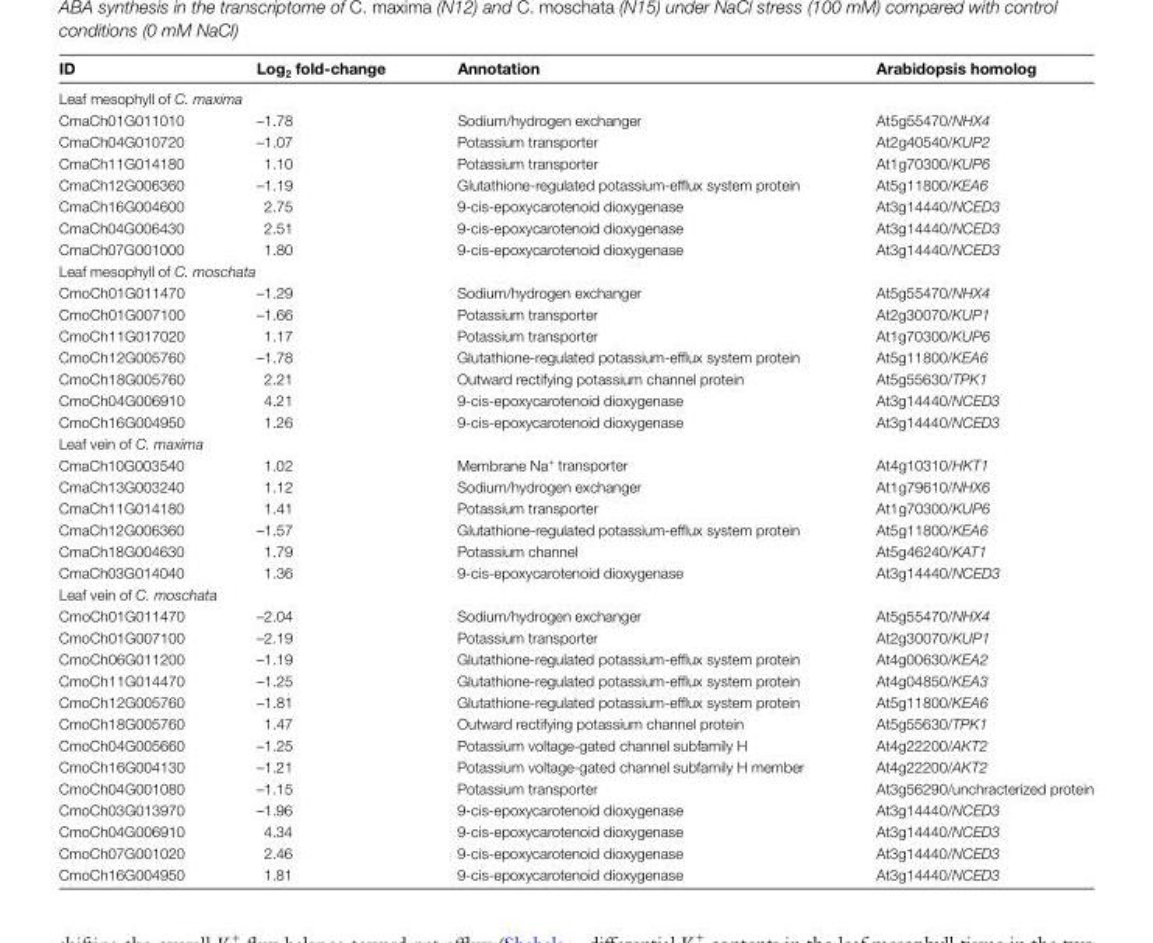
<table><thead><tr><td>ID</td><td>Log<sub>2</sub> fold-change</td><td>Annotation</td><td>Arabidopsis homolog</td></tr></thead><tbody><tr><td colspan="4">Leaf mesophyll of C. maxima</td></tr><tr><td>CmaCh01G011010</td><td>–1.78</td><td>Sodium/hydrogen exchanger</td><td>At5g55470/NHX4</td></tr><tr><td>CmaCh04G010720</td><td>–1.07</td><td>Potassium transporter</td><td>At2g40540/KUP2</td></tr><tr><td>CmaCh11G014180</td><td>1.10</td><td>Potassium transporter</td><td>At1g70300/KUP6</td></tr><tr><td>CmaCh12G006360</td><td>–1.19</td><td>Glutathione-regulated potassium-efflux system protein</td><td>At5g11800/KEA6</td></tr><tr><td>CmaCh16G004600</td><td>2.75</td><td>9-cis-epoxycarotenoid dioxygenase</td><td>At3g14440/NCED3</td></tr><tr><td>CmaCh04G006430</td><td>2.51</td><td>9-cis-epoxycarotenoid dioxygenase</td><td>At3g14440/NCED3</td></tr><tr><td>CmaCh07G001000</td><td>1.80</td><td>9-cis-epoxycarotenoid dioxygenase</td><td>At3g14440/NCED3</td></tr><tr><td colspan="4">Leaf mesophyll of C. moschata</td></tr><tr><td>CmoCh01G011470</td><td>–1.29</td><td>Sodium/hydrogen exchanger</td><td>At5g55470/NHX4</td></tr><tr><td>CmoCh01G007100</td><td>–1.66</td><td>Potassium transporter</td><td>At2g30070/KUP1</td></tr><tr><td>CmoCh11G017020</td><td>1.17</td><td>Potassium transporter</td><td>At1g70300/KUP6</td></tr><tr><td>CmoCh12G005760</td><td>–1.78</td><td>Glutathione-regulated potassium-efflux system protein</td><td>At5g11800/KEA6</td></tr><tr><td>CmoCh18G005760</td><td>2.21</td><td>Outward rectifying potassium channel protein</td><td>At5g55630/TPK1</td></tr><tr><td>CmoCh04G006910</td><td>4.21</td><td>9-cis-epoxycarotenoid dioxygenase</td><td>At3g14440/NCED3</td></tr><tr><td>CmoCh16G004950</td><td>1.26</td><td>9-cis-epoxycarotenoid dioxygenase</td><td>At3g14440/NCED3</td></tr><tr><td colspan="4">Leaf vein of C. maxima</td></tr><tr><td>CmaCh10G003540</td><td>1.02</td><td>Membrane Na<sup>+</sup> transporter</td><td>At4g10310/HKT1</td></tr><tr><td>CmaCh13G003240</td><td>1.12</td><td>Sodium/hydrogen exchanger</td><td>At1g79610/NHX6</td></tr><tr><td>CmaCh11G014180</td><td>1.41</td><td>Potassium transporter</td><td>At1g70300/KUP6</td></tr><tr><td>CmaCh12G006360</td><td>–1.57</td><td>Glutathione-regulated potassium-efflux system protein</td><td>At5g11800/KEA6</td></tr><tr><td>CmaCh18G004630</td><td>1.79</td><td>Potassium channel</td><td>At5g46240/KAT1</td></tr><tr><td>CmaCh03G014040</td><td>1.36</td><td>9-cis-epoxycarotenoid dioxygenase</td><td>At3g14440/NCED3</td></tr><tr><td colspan="4">Leaf vein of C. moschata</td></tr><tr><td>CmoCh01G011470</td><td>–2.04</td><td>Sodium/hydrogen exchanger</td><td>At5g55470/NHX4</td></tr><tr><td>CmoCh01G007100</td><td>–2.19</td><td>Potassium transporter</td><td>At2g30070/KUP1</td></tr><tr><td>CmoCh06G011200</td><td>–1.19</td><td>Glutathione-regulated potassium-efflux system protein</td><td>At4g00630/KEA2</td></tr><tr><td>CmoCh11G014470</td><td>–1.25</td><td>Glutathione-regulated potassium-efflux system protein</td><td>At4g04850/KEA3</td></tr><tr><td>CmoCh12G005760</td><td>–1.81</td><td>Glutathione-regulated potassium-efflux system protein</td><td>At5g11800/KEA6</td></tr><tr><td>CmoCh18G005760</td><td>1.47</td><td>Outward rectifying potassium channel protein</td><td>At5g55630/TPK1</td></tr><tr><td>CmoCh04G005660</td><td>–1.25</td><td>Potassium voltage-gated channel subfamily H</td><td>At4g22200/AKT2</td></tr><tr><td>CmoCh16G004130</td><td>–1.21</td><td>Potassium voltage-gated channel subfamily H member</td><td>At4g22200/AKT2</td></tr><tr><td>CmoCh04G001080</td><td>–1.15</td><td>Potassium transporter</td><td>At3g56290/unchracterized protein</td></tr><tr><td>CmoCh03G013970</td><td>–1.96</td><td>9-cis-epoxycarotenoid dioxygenase</td><td>At3g14440/NCED3</td></tr><tr><td>CmoCh04G006910</td><td>4.34</td><td>9-cis-epoxycarotenoid dioxygenase</td><td>At3g14440/NCED3</td></tr><tr><td>CmoCh07G001020</td><td>2.46</td><td>9-cis-epoxycarotenoid dioxygenase</td><td>At3g14440/NCED3</td></tr><tr><td>CmoCh16G004950</td><td>1.81</td><td>9-cis-epoxycarotenoid dioxygenase</td><td>At3g14440/NCED3</td></tr></tbody></table>